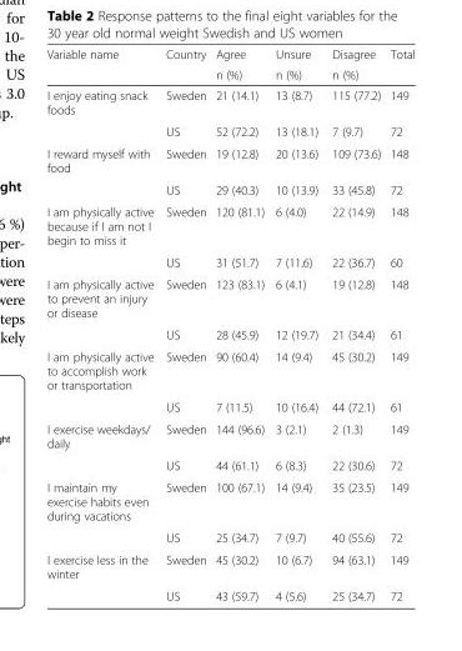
<table><thead><tr><td rowspan="2">Variable name</td><td rowspan="2">Country</td><td rowspan="2">Agree n (%)</td><td rowspan="2">Unsure n (%)</td><td rowspan="2">Disagree n (%)</td><td rowspan="2">Total</td></tr><tr></tr></thead><tbody><tr><td rowspan="2">I enjoy eating snack foods</td><td>Sweden</td><td>21 (14.1)</td><td>13 (8.7)</td><td>115 (77.2)</td><td>149</td></tr><tr><td>US</td><td>52 (72.2)</td><td>13 (18.1)</td><td>7 (9.7)</td><td>72</td></tr><tr><td rowspan="2">I reward myself with food</td><td>Sweden</td><td>19 (12.8)</td><td>20 (13.6)</td><td>109 (73.6)</td><td>148</td></tr><tr><td>US</td><td>29 (40.3)</td><td>10 (13.9)</td><td>33 (45.8)</td><td>72</td></tr><tr><td rowspan="2">I am physically active because if I am not I begin to miss it</td><td>Sweden</td><td>120 (81.1)</td><td>6 (4.0)</td><td>22 (14.9)</td><td>148</td></tr><tr><td>US</td><td>31 (51.7)</td><td>7 (11.6)</td><td>22 (36.7)</td><td>60</td></tr><tr><td rowspan="2">I am physically active to prevent an injury or disease</td><td>Sweden</td><td>123 (83.1)</td><td>6 (4.1)</td><td>19 (12.8)</td><td>148</td></tr><tr><td>US</td><td>28 (45.9)</td><td>12 (19.7)</td><td>21 (34.4)</td><td>61</td></tr><tr><td rowspan="2">I am physically active to accomplish work or transportation</td><td>Sweden</td><td>90 (60.4)</td><td>14 (9.4)</td><td>45 (30.2)</td><td>149</td></tr><tr><td>US</td><td>7 (11.5)</td><td>10 (16.4)</td><td>44 (72.1)</td><td>61</td></tr><tr><td rowspan="2">I exercise weekdays/ daily</td><td>Sweden</td><td>144 (96.6)</td><td>3 (2.1)</td><td>2 (1.3)</td><td>149</td></tr><tr><td>US</td><td>44 (61.1)</td><td>6 (8.3)</td><td>22 (30.6)</td><td>72</td></tr><tr><td rowspan="2">I maintain my exercise habits even during vacations</td><td>Sweden</td><td>100 (67.1)</td><td>14 (9.4)</td><td>35 (23.5)</td><td>149</td></tr><tr><td>US</td><td>25 (34.7)</td><td>7 (9.7)</td><td>40 (55.6)</td><td>72</td></tr><tr><td rowspan="2">I exercise less in the winter</td><td>Sweden</td><td>45 (30.2)</td><td>10 (6.7)</td><td>94 (63.1)</td><td>149</td></tr><tr><td>US</td><td>43 (59.7)</td><td>4 (5.6)</td><td>25 (34.7)</td><td>72</td></tr></tbody></table>